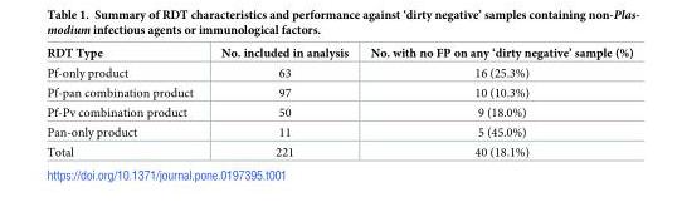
<table><thead><tr><td>RDT Type</td><td>No. included in analysis</td><td>No. with no FP on any ‘dirty negative’ sample (%)</td></tr></thead><tbody><tr><td>Pf-only product</td><td>63</td><td>16 (25.3%)</td></tr><tr><td>Pf-pan combination product</td><td>97</td><td>10 (10.3%)</td></tr><tr><td>Pf-Pv combination product</td><td>50</td><td>9 (18.0%)</td></tr><tr><td>Pan-only product</td><td>11</td><td>5 (45.0%)</td></tr><tr><td>Total</td><td>221</td><td>40 (18.1%)</td></tr></tbody></table>